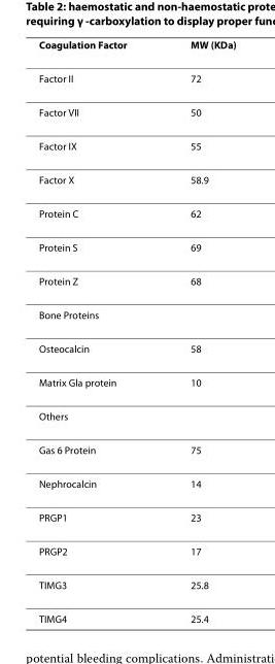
<table><thead><tr><td>Coagulation Factor</td><td>MW (KDa)</td></tr></thead><tbody><tr><td>Factor II</td><td>72</td></tr><tr><td>Factor VII</td><td>50</td></tr><tr><td>Factor IX</td><td>55</td></tr><tr><td>Factor X</td><td>58.9</td></tr><tr><td>Protein C</td><td>62</td></tr><tr><td>Protein S</td><td>69</td></tr><tr><td>Protein Z</td><td>68</td></tr><tr><td colspan="2">Bone Proteins</td></tr><tr><td>Osteocalcin</td><td>58</td></tr><tr><td>Matrix Gla protein</td><td>10</td></tr><tr><td colspan="2">Others</td></tr><tr><td>Gas 6 Protein</td><td>75</td></tr><tr><td>Nephrocalcin</td><td>14</td></tr><tr><td>PRGP1</td><td>23</td></tr><tr><td>PRGP2</td><td>17</td></tr><tr><td>TIMG3</td><td>25.8</td></tr><tr><td>TIMG4</td><td>25.4</td></tr></tbody></table>